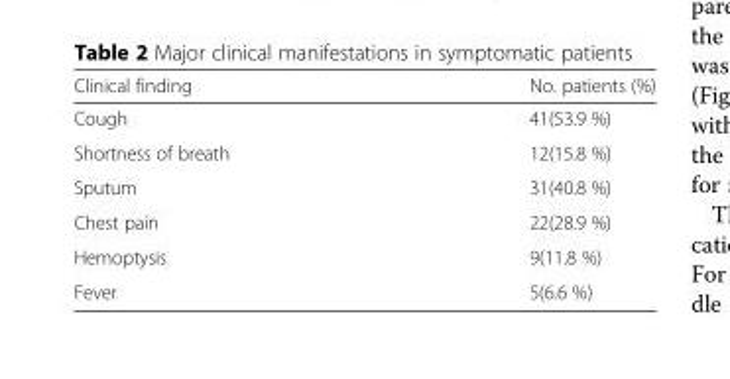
<table><thead><tr><td>Clinical finding</td><td>No. patients (%)</td></tr></thead><tbody><tr><td>Cough</td><td>41(53.9 %)</td></tr><tr><td>Shortness of breath</td><td>12(15.8 %)</td></tr><tr><td>Sputum</td><td>31(40.8 %)</td></tr><tr><td>Chest pain</td><td>22(28.9 %)</td></tr><tr><td>Hemoptysis</td><td>9(11.8 %)</td></tr><tr><td>Fever</td><td>5(6.6 %)</td></tr></tbody></table>